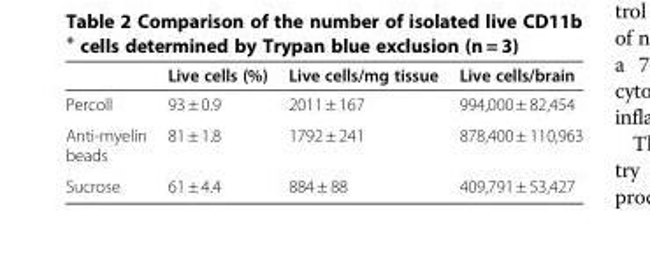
<table><thead><tr><td></td><td>Live cells (%)</td><td>Live cells/mg tissue</td><td>Live cells/brain</td></tr></thead><tbody><tr><td>Percoll</td><td>93 ± 0.9</td><td>2011 ± 167</td><td>994,000 ± 82,454</td></tr><tr><td>Anti-myelin beads</td><td>81 ± 1.8</td><td>1792 ± 241</td><td>878,400 ± 110,963</td></tr><tr><td>Sucrose</td><td>61 ± 4.4</td><td>884 ± 88</td><td>409,791 ± 53,427</td></tr></tbody></table>